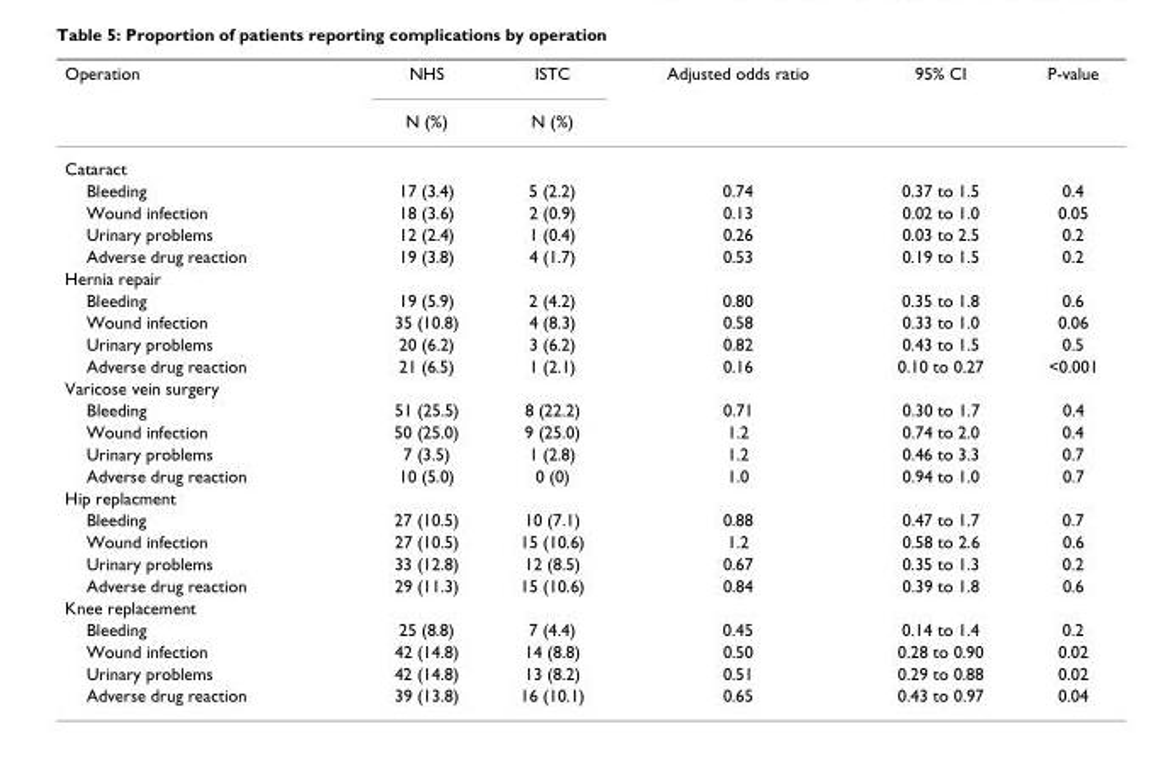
<table><thead><tr><td rowspan="2">Operation</td><td rowspan="2">NHS N (%)</td><td rowspan="2">ISTC N (%)</td><td rowspan="2">Adjusted odds ratio</td><td rowspan="2">95% CI</td><td rowspan="2">P-value</td></tr><tr></tr></thead><tbody><tr><td colspan="6">Cataract</td></tr><tr><td>Bleeding</td><td>17 (3.4)</td><td>5 (2.2)</td><td>0.74</td><td>0.37 to 1.5</td><td>0.4</td></tr><tr><td>Wound infection</td><td>18 (3.6)</td><td>2 (0.9)</td><td>0.13</td><td>0.02 to 1.0</td><td>0.05</td></tr><tr><td>Urinary problems</td><td>12 (2.4)</td><td>1 (0.4)</td><td>0.26</td><td>0.03 to 2.5</td><td>0.2</td></tr><tr><td>Adverse drug reaction</td><td>19 (3.8)</td><td>4 (1.7)</td><td>0.53</td><td>0.19 to 1.5</td><td>0.2</td></tr><tr><td colspan="6">Hernia repair</td></tr><tr><td>Bleeding</td><td>19 (5.9)</td><td>2 (4.2)</td><td>0.80</td><td>0.35 to 1.8</td><td>0.6</td></tr><tr><td>Wound infection</td><td>35 (10.8)</td><td>4 (8.3)</td><td>0.58</td><td>0.33 to 1.0</td><td>0.06</td></tr><tr><td>Urinary problems</td><td>20 (6.2)</td><td>3 (6.2)</td><td>0.82</td><td>0.43 to 1.5</td><td>0.5</td></tr><tr><td>Adverse drug reaction</td><td>21 (6.5)</td><td>1 (2.1)</td><td>0.16</td><td>0.10 to 0.27</td><td>&lt;0.001</td></tr><tr><td colspan="6">Varicose vein surgery</td></tr><tr><td>Bleeding</td><td>51 (25.5)</td><td>8 (22.2)</td><td>0.71</td><td>0.30 to 1.7</td><td>0.4</td></tr><tr><td>Wound infection</td><td>50 (25.0)</td><td>9 (25.0)</td><td>1.2</td><td>0.74 to 2.0</td><td>0.4</td></tr><tr><td>Urinary problems</td><td>7 (3.5)</td><td>1 (2.8)</td><td>1.2</td><td>0.46 to 3.3</td><td>0.7</td></tr><tr><td>Adverse drug reaction</td><td>10 (5.0)</td><td>0 (0)</td><td>1.0</td><td>0.94 to 1.0</td><td>0.7</td></tr><tr><td colspan="6">Hip replacment</td></tr><tr><td>Bleeding</td><td>27 (10.5)</td><td>10 (7.1)</td><td>0.88</td><td>0.47 to 1.7</td><td>0.7</td></tr><tr><td>Wound infection</td><td>27 (10.5)</td><td>15 (10.6)</td><td>1.2</td><td>0.58 to 2.6</td><td>0.6</td></tr><tr><td>Urinary problems</td><td>33 (12.8)</td><td>12 (8.5)</td><td>0.67</td><td>0.35 to 1.3</td><td>0.2</td></tr><tr><td>Adverse drug reaction</td><td>29 (11.3)</td><td>15 (10.6)</td><td>0.84</td><td>0.39 to 1.8</td><td>0.6</td></tr><tr><td colspan="6">Knee replacement</td></tr><tr><td>Bleeding</td><td>25 (8.8)</td><td>7 (4.4)</td><td>0.45</td><td>0.14 to 1.4</td><td>0.2</td></tr><tr><td>Wound infection</td><td>42 (14.8)</td><td>14 (8.8)</td><td>0.50</td><td>0.28 to 0.90</td><td>0.02</td></tr><tr><td>Urinary problems</td><td>42 (14.8)</td><td>13 (8.2)</td><td>0.51</td><td>0.29 to 0.88</td><td>0.02</td></tr><tr><td>Adverse drug reaction</td><td>39 (13.8)</td><td>16 (10.1)</td><td>0.65</td><td>0.43 to 0.97</td><td>0.04</td></tr></tbody></table>